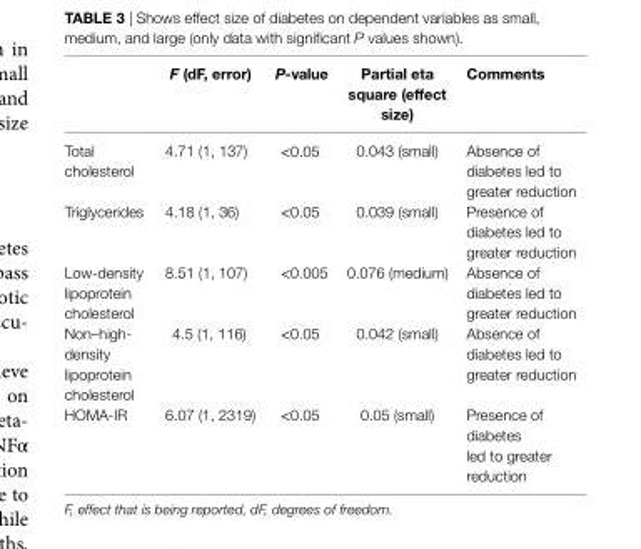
<table><thead><tr><td></td><td>F (dF, error)</td><td>P-value</td><td>Partial eta square (effect size)</td><td>comments</td></tr></thead><tbody><tr><td>Total cholesterol</td><td>4.71 (1, 137)</td><td>&lt;0.05</td><td>0.043 (small)</td><td>Absence of diabetes led to greater reduction</td></tr><tr><td>Triglycerides</td><td>4.18 (1, 36)</td><td>&lt;0.05</td><td>0.039 (small)</td><td>Presence of diabetes led to greater reduction</td></tr><tr><td>Low-density lipoprotein cholesterol</td><td>8.51 (1, 107)</td><td>&lt;0.005</td><td>0.076 (medium)</td><td>Absence of diabetes led to greater reduction</td></tr><tr><td>Non–high- density lipoprotein cholesterol</td><td>4.5 (1, 116)</td><td>&lt;0.05</td><td>0.042 (small)</td><td>Absence of diabetes led to greater reduction</td></tr><tr><td>HOMA-IR</td><td>6.07 (1, 2319)</td><td>&lt;0.05</td><td>0.05 (small)</td><td>Presence of diabetes led to greater reduction</td></tr></tbody></table>